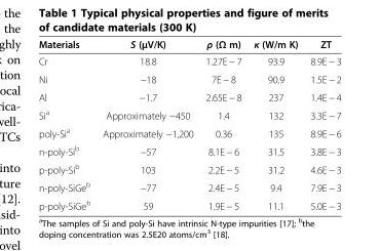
<table><thead><tr><td>Materials</td><td>S (μV/K)</td><td>ρ (Ω m)</td><td>κ (W/m K)</td><td>ZT</td></tr></thead><tbody><tr><td>Cr</td><td>18.8</td><td>1.27E − 7</td><td>93.9</td><td>8.9E − 3</td></tr><tr><td>Ni</td><td>−18</td><td>7E − 8</td><td>90.9</td><td>1.5E − 2</td></tr><tr><td>Al</td><td>−1.7</td><td>2.65E − 8</td><td>237</td><td>1.4E − 4</td></tr><tr><td>Si<sup>a</sup></td><td>Approximately −450</td><td>1.4</td><td>132</td><td>3.3E − 7</td></tr><tr><td>poly-Si<sup>a</sup></td><td>Approximately −1,200</td><td>0.36</td><td>135</td><td>8.9E − 6</td></tr><tr><td>n-poly-Si<sup>b</sup></td><td>−57</td><td>8.1E − 6</td><td>31.5</td><td>3.8E − 3</td></tr><tr><td>p-poly-Si<sup>b</sup></td><td>103</td><td>2.2E − 5</td><td>31.2</td><td>4.6E − 3</td></tr><tr><td>n-poly-SiGe<sup>b</sup></td><td>−77</td><td>2.4E − 5</td><td>9.4</td><td>7.9E − 3</td></tr><tr><td>p-poly-SiGe<sup>b</sup></td><td>59</td><td>1.9E − 5</td><td>11.1</td><td>5.0E − 3</td></tr></tbody></table>